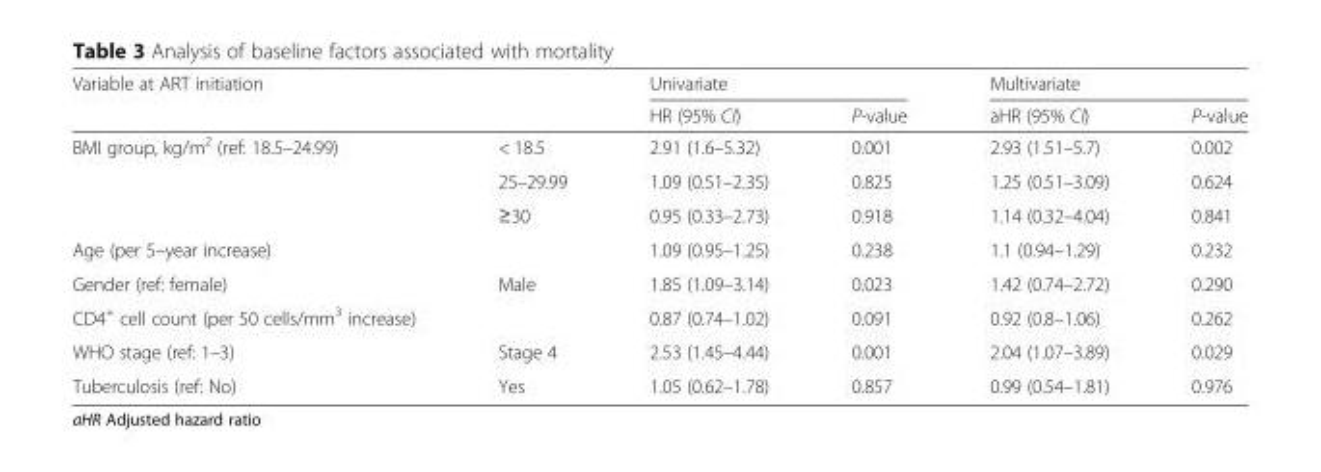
<table><thead><tr><td rowspan="2" colspan="2">Variable at ART initiation</td><td colspan="2">Univariate</td><td colspan="2">Multivariate</td></tr><tr><td rowspan="2">HR (95% CI) 2.91 (1.6–5.32)</td><td rowspan="2">P-value 0.001</td><td rowspan="2">aHR (95% CI) 2.93 (1.51–5.7)</td><td rowspan="2">P-value 0.002</td></tr><tr><td>BMI group, kg/m<sup>2</sup> (ref: 18.5–24.99)</td><td>&lt; 18.5</td></tr></thead><tbody><tr><td></td><td>25–29.99</td><td>1.09 (0.51–2.35)</td><td>0.825</td><td>1.25 (0.51–3.09)</td><td>0.624</td></tr><tr><td></td><td>≥30</td><td>0.95 (0.33–2.73)</td><td>0.918</td><td>1.14 (0.32–4.04)</td><td>0.841</td></tr><tr><td>Age (per 5–year increase)</td><td></td><td>1.09 (0.95–1.25)</td><td>0.238</td><td>1.1 (0.94–1.29)</td><td>0.232</td></tr><tr><td>Gender (ref: female)</td><td>Male</td><td>1.85 (1.09–3.14)</td><td>0.023</td><td>1.42 (0.74–2.72)</td><td>0.290</td></tr><tr><td>CD4<sup>+</sup> cell count (per 50 cells/mm<sup>3</sup> increase)</td><td></td><td>0.87 (0.74–1.02)</td><td>0.091</td><td>0.92 (0.8–1.06)</td><td>0.262</td></tr><tr><td>WHO stage (ref: 1–3)</td><td>Stage 4</td><td>2.53 (1.45–4.44)</td><td>0.001</td><td>2.04 (1.07–3.89)</td><td>0.029</td></tr><tr><td>Tuberculosis (ref: No)</td><td>Yes</td><td>1.05 (0.62–1.78)</td><td>0.857</td><td>0.99 (0.54–1.81)</td><td>0.976</td></tr></tbody></table>